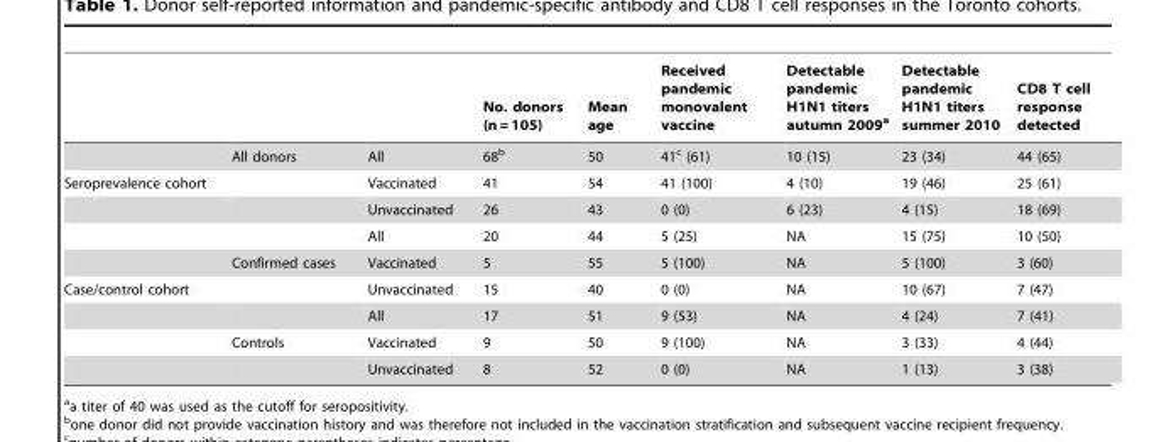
<table><thead><tr><td></td><td></td><td></td><td>No. donors (n = 105)</td><td>Mean age</td><td>Received pandemic monovalent vaccine</td><td>Detectable pandemic H1N1 titers autumn 2009<sup>a</sup></td><td>Detectable pandemic H1N1 titers summer 2010</td><td>CD8 T cell response detected</td></tr></thead><tbody><tr><td></td><td>All donors</td><td>All</td><td>68<sup>b</sup></td><td>50</td><td>41<sup>c</sup> (61)</td><td>10 (15)</td><td>23 (34)</td><td>44 (65)</td></tr><tr><td rowspan="4">Seroprevalence cohort</td><td></td><td>Vaccinated</td><td>41</td><td>54</td><td>41 (100)</td><td>4 (10)</td><td>19 (46)</td><td>25 (61)</td></tr><tr><td></td><td>Unvaccinated</td><td>26</td><td>43</td><td>0 (0)</td><td>6 (23)</td><td>4 (15)</td><td>18 (69)</td></tr><tr><td></td><td>All</td><td>20</td><td>44</td><td>5 (25)</td><td>NA</td><td>15 (75)</td><td>10 (50)</td></tr><tr><td>Confirmed cases</td><td>Vaccinated</td><td>5</td><td>55</td><td>5 (100)</td><td>NA</td><td>5 (100)</td><td>3 (60)</td></tr><tr><td rowspan="4">Case/control cohort</td><td></td><td>Unvaccinated</td><td>15</td><td>40</td><td>0 (0)</td><td>NA</td><td>10 (67)</td><td>7 (47)</td></tr><tr><td></td><td>All</td><td>17</td><td>51</td><td>9 (53)</td><td>NA</td><td>4 (24)</td><td>7 (41)</td></tr><tr><td>Controls</td><td>Vaccinated</td><td>9</td><td>50</td><td>9 (100)</td><td>NA</td><td>3 (33)</td><td>4 (44)</td></tr><tr><td></td><td>Unvaccinated</td><td>8</td><td>52</td><td>0 (0)</td><td>NA</td><td>1 (13)</td><td>3 (38)</td></tr></tbody></table>